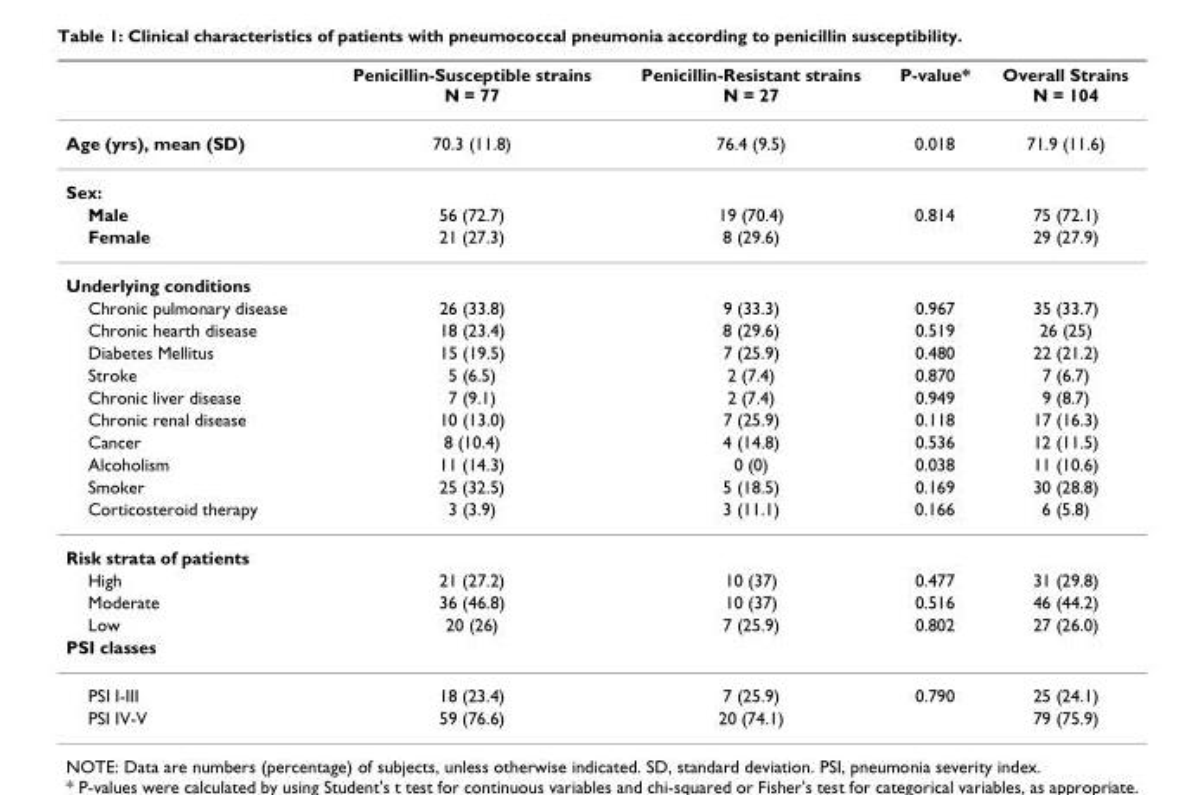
<table><thead><tr><td></td><td>Penicillin-Susceptible strains N = 77</td><td>Penicillin-Resistant strains N = 27</td><td>P-value*</td><td>Overall Strains N = 104</td></tr></thead><tbody><tr><td>Age (yrs), mean (SD)</td><td>70.3 (11.8)</td><td>76.4 (9.5)</td><td>0.018</td><td>71.9 (11.6)</td></tr><tr><td colspan="5">Sex:</td></tr><tr><td>Male</td><td>56 (72.7)</td><td>19 (70.4)</td><td>0.814</td><td>75 (72.1)</td></tr><tr><td>Female</td><td>21 (27.3)</td><td>8 (29.6)</td><td></td><td>29 (27.9)</td></tr><tr><td colspan="5">Underlying conditions</td></tr><tr><td>Chronic pulmonary disease</td><td>26 (33.8)</td><td>9 (33.3)</td><td>0.967</td><td>35 (33.7)</td></tr><tr><td>Chronic hearth disease</td><td>18 (23.4)</td><td>8 (29.6)</td><td>0.519</td><td>26 (25)</td></tr><tr><td>Diabetes Mellitus</td><td>15 (19.5)</td><td>7 (25.9)</td><td>0.480</td><td>22 (21.2)</td></tr><tr><td>Stroke</td><td>5 (6.5)</td><td>2 (7.4)</td><td>0.870</td><td>7 (6.7)</td></tr><tr><td>Chronic liver disease</td><td>7 (9.1)</td><td>2 (7.4)</td><td>0.949</td><td>9 (8.7)</td></tr><tr><td>Chronic renal disease</td><td>10 (13.0)</td><td>7 (25.9)</td><td>0.118</td><td>17 (16.3)</td></tr><tr><td>Cancer</td><td>8 (10.4)</td><td>4 (14.8)</td><td>0.536</td><td>12 (11.5)</td></tr><tr><td>Alcoholism</td><td>11 (14.3)</td><td>0 (0)</td><td>0.038</td><td>11 (10.6)</td></tr><tr><td>Smoker</td><td>25 (32.5)</td><td>5 (18.5)</td><td>0.169</td><td>30 (28.8)</td></tr><tr><td>Corticosteroid therapy</td><td>3 (3.9)</td><td>3 (11.1)</td><td>0.166</td><td>6 (5.8)</td></tr><tr><td colspan="5">Risk strata of patients</td></tr><tr><td>High</td><td>21 (27.2)</td><td>10 (37)</td><td>0.477</td><td>31 (29.8)</td></tr><tr><td>Moderate</td><td>36 (46.8)</td><td>10 (37)</td><td>0.516</td><td>46 (44.2)</td></tr><tr><td>Low</td><td>20 (26)</td><td>7 (25.9)</td><td>0.802</td><td>27 (26.0)</td></tr><tr><td colspan="5">PSI classes</td></tr><tr><td>PSI I-III</td><td>18 (23.4)</td><td>7 (25.9)</td><td>0.790</td><td>25 (24.1)</td></tr><tr><td>PSI IV-V</td><td>59 (76.6)</td><td>20 (74.1)</td><td></td><td>79 (75.9)</td></tr></tbody></table>